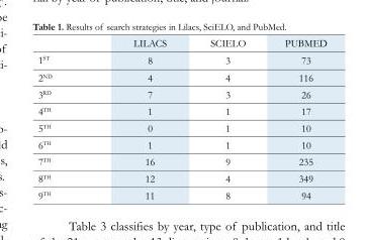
<table><thead><tr><td></td><td>LILACS</td><td>SCIELO</td><td>PUBMED</td></tr></thead><tbody><tr><td>1<sup>ST</sup></td><td>8</td><td>3</td><td>73</td></tr><tr><td>2<sup>ND</sup></td><td>4</td><td>4</td><td>116</td></tr><tr><td>3<sup>RD</sup></td><td>7</td><td>3</td><td>26</td></tr><tr><td>4<sup>TH</sup></td><td>1</td><td>1</td><td>17</td></tr><tr><td>5<sup>TH</sup></td><td>0</td><td>1</td><td>10</td></tr><tr><td>6<sup>TH</sup></td><td>1</td><td>1</td><td>10</td></tr><tr><td>7<sup>TH</sup></td><td>16</td><td>9</td><td>235</td></tr><tr><td>8<sup>TH</sup></td><td>12</td><td>4</td><td>349</td></tr><tr><td>9<sup>TH</sup></td><td>11</td><td>8</td><td>94</td></tr></tbody></table>